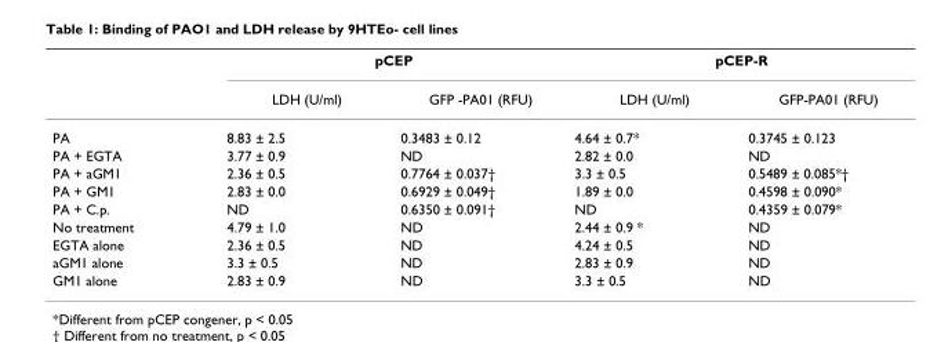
<table><thead><tr><td rowspan="2"></td><td colspan="2">pCEP</td><td colspan="2">pCEP-R</td></tr><tr><td>LDH (U/ml)</td><td>GFP -PA01 (RFU)</td><td>LDH (U/ml)</td><td>GFP-PA01 (RFU)</td></tr></thead><tbody><tr><td>PA</td><td>8.83 ± 2.5</td><td>0.3483 ± 0.12</td><td>4.64 ± 0.7*</td><td>0.3745 ± 0.123</td></tr><tr><td>PA + EGTA</td><td>3.77 ± 0.9</td><td>ND</td><td>2.82 ± 0.0</td><td>ND</td></tr><tr><td>PA + aGM1</td><td>2.36 ± 0.5</td><td>0.7764 ± 0.037†</td><td>3.3 ± 0.5</td><td>0.5489 ± 0.085*†</td></tr><tr><td>PA + GM1</td><td>2.83 ± 0.0</td><td>0.6929 ± 0.049†</td><td>1.89 ± 0.0</td><td>0.4598 ± 0.090*</td></tr><tr><td>PA + C.p.</td><td>ND</td><td>0.6350 ± 0.091†</td><td>ND</td><td>0.4359 ± 0.079*</td></tr><tr><td>No treatment</td><td>4.79 ± 1.0</td><td>ND</td><td>2.44 ± 0.9 *</td><td>ND</td></tr><tr><td>EGTA alone</td><td>2.36 ± 0.5</td><td>ND</td><td>4.24 ± 0.5</td><td>ND</td></tr><tr><td>aGM1 alone</td><td>3.3 ± 0.5</td><td>ND</td><td>2.83 ± 0.9</td><td>ND</td></tr><tr><td>GM1 alone</td><td>2.83 ± 0.9</td><td>ND</td><td>3.3 ± 0.5</td><td>ND</td></tr></tbody></table>